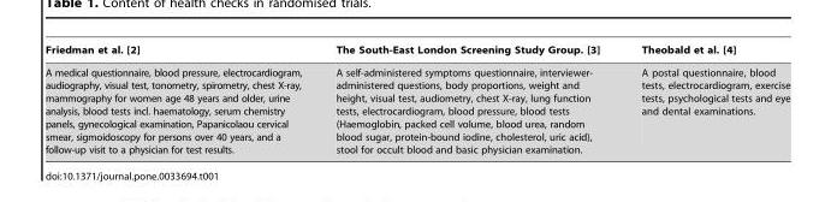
<table><thead><tr><td>Friedman et al. [2]</td><td>The South-East London Screening Study Group. [3]</td><td>Theobald et al. [4]</td></tr></thead><tbody><tr><td>A medical questionnaire, blood pressure, electrocardiogram, audiography, visual test, tonometry, spirometry, chest X-ray, mammography for women age 48 years and older, urine analysis, blood tests incl. haematology, serum chemistry panels, gynecological examination, Papanicolaou cervical smear, sigmoidoscopy for persons over 40 years, and a follow-up visit to a physician for test results.</td><td>A self-administered symptoms questionnaire, interviewer- administered questions, body proportions, weight and height, visual test, audiometry, chest X-ray, lung function tests, electrocardiogram, blood pressure, blood tests (Haemoglobin, packed cell volume, blood urea, random blood sugar, protein-bound iodine, cholesterol, uric acid), stool for occult blood and basic physician examination.</td><td>A postal questionnaire, blood tests, electrocardiogram, exercise tests, psychological tests and eye and dental examinations.</td></tr></tbody></table>